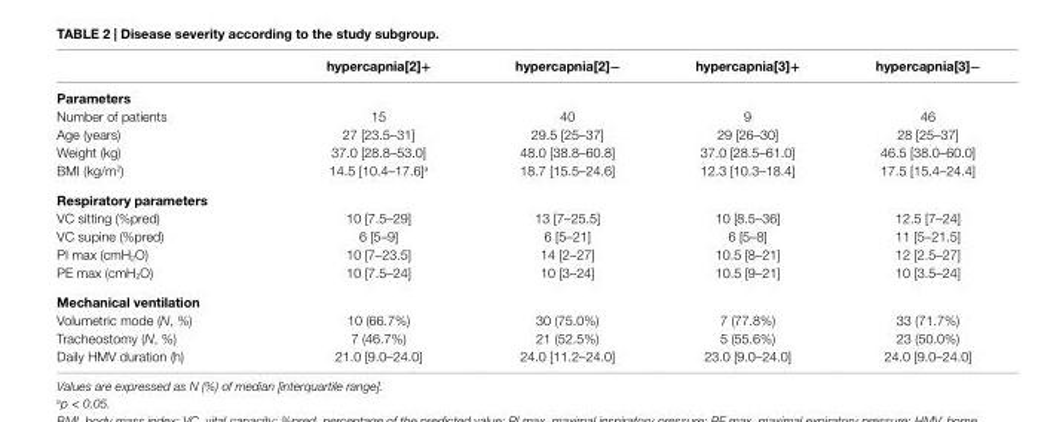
<table><thead><tr><td></td><td>hypercapnia[2]+</td><td>hypercapnia[2]−</td><td>hypercapnia[3]+</td><td>hypercapnia[3]−</td></tr></thead><tbody><tr><td colspan="5">Parameters</td></tr><tr><td>Number of patients</td><td>15</td><td>40</td><td>9</td><td>46</td></tr><tr><td>Age (years)</td><td>27 [23.5–31]</td><td>29.5 [25–37]</td><td>29 [26–30]</td><td>28 [25–37]</td></tr><tr><td>Weight (kg)</td><td>37.0 [28.8–53.0]</td><td>48.0 [38.8–60.8]</td><td>37.0 [28.5–61.0]</td><td>46.5 [38.0–60.0]</td></tr><tr><td>BMI (kg/m<sup>2</sup>)</td><td>14.5 [10.4–17.6]<sup>a</sup></td><td>18.7 [15.5–24.6]</td><td>12.3 [10.3–18.4]</td><td>17.5 [15.4–24.4]</td></tr><tr><td colspan="5">respiratory parameters</td></tr><tr><td>VC sitting (%pred)</td><td>10 [7.5–29]</td><td>13 [7–25.5]</td><td>10 [8.5–36]</td><td>12.5 [7–24]</td></tr><tr><td>VC supine (%pred)</td><td>6 [5–9]</td><td>6 [5–21]</td><td>6 [5–8]</td><td>11 [5–21.5]</td></tr><tr><td>PI max (cmH<sub>2</sub>O)</td><td>10 [7–23.5]</td><td>14 [2–27]</td><td>10.5 [8–21]</td><td>12 [2.5–27]</td></tr><tr><td>PE max (cmH<sub>2</sub>O)</td><td>10 [7.5–24]</td><td>10 [3–24]</td><td>10.5 [9–21]</td><td>10 [3.5–24]</td></tr><tr><td colspan="5">Mechanical ventilation</td></tr><tr><td>Volumetric mode (N, %)</td><td>10 (66.7%)</td><td>30 (75.0%)</td><td>7 (77.8%)</td><td>33 (71.7%)</td></tr><tr><td>Tracheostomy (N, %)</td><td>7 (46.7%)</td><td>21 (52.5%)</td><td>5 (55.6%)</td><td>23 (50.0%)</td></tr><tr><td>Daily HMV duration (h)</td><td>21.0 [9.0–24.0]</td><td>24.0 [11.2–24.0]</td><td>23.0 [9.0–24.0]</td><td>24.0 [9.0–24.0]</td></tr></tbody></table>